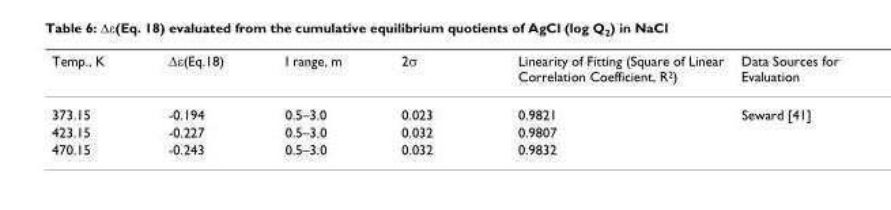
<table><thead><tr><td>Temp., K</td><td>∆ε(Eq.18)</td><td>I range, m</td><td>2σ</td><td>Linearity of Fitting (Square of Linear Correlation Coefficient, R<sup>2</sup>)</td><td>Data Sources for Evaluation</td></tr></thead><tbody><tr><td>373.15</td><td>-0.194</td><td>0.5–3.0</td><td>0.023</td><td>0.9821</td><td>Seward [41]</td></tr><tr><td>423.15</td><td>-0.227</td><td>0.5–3.0</td><td>0.032</td><td>0.9807</td><td></td></tr><tr><td>470.15</td><td>-0.243</td><td>0.5–3.0</td><td>0.032</td><td>0.9832</td><td></td></tr></tbody></table>